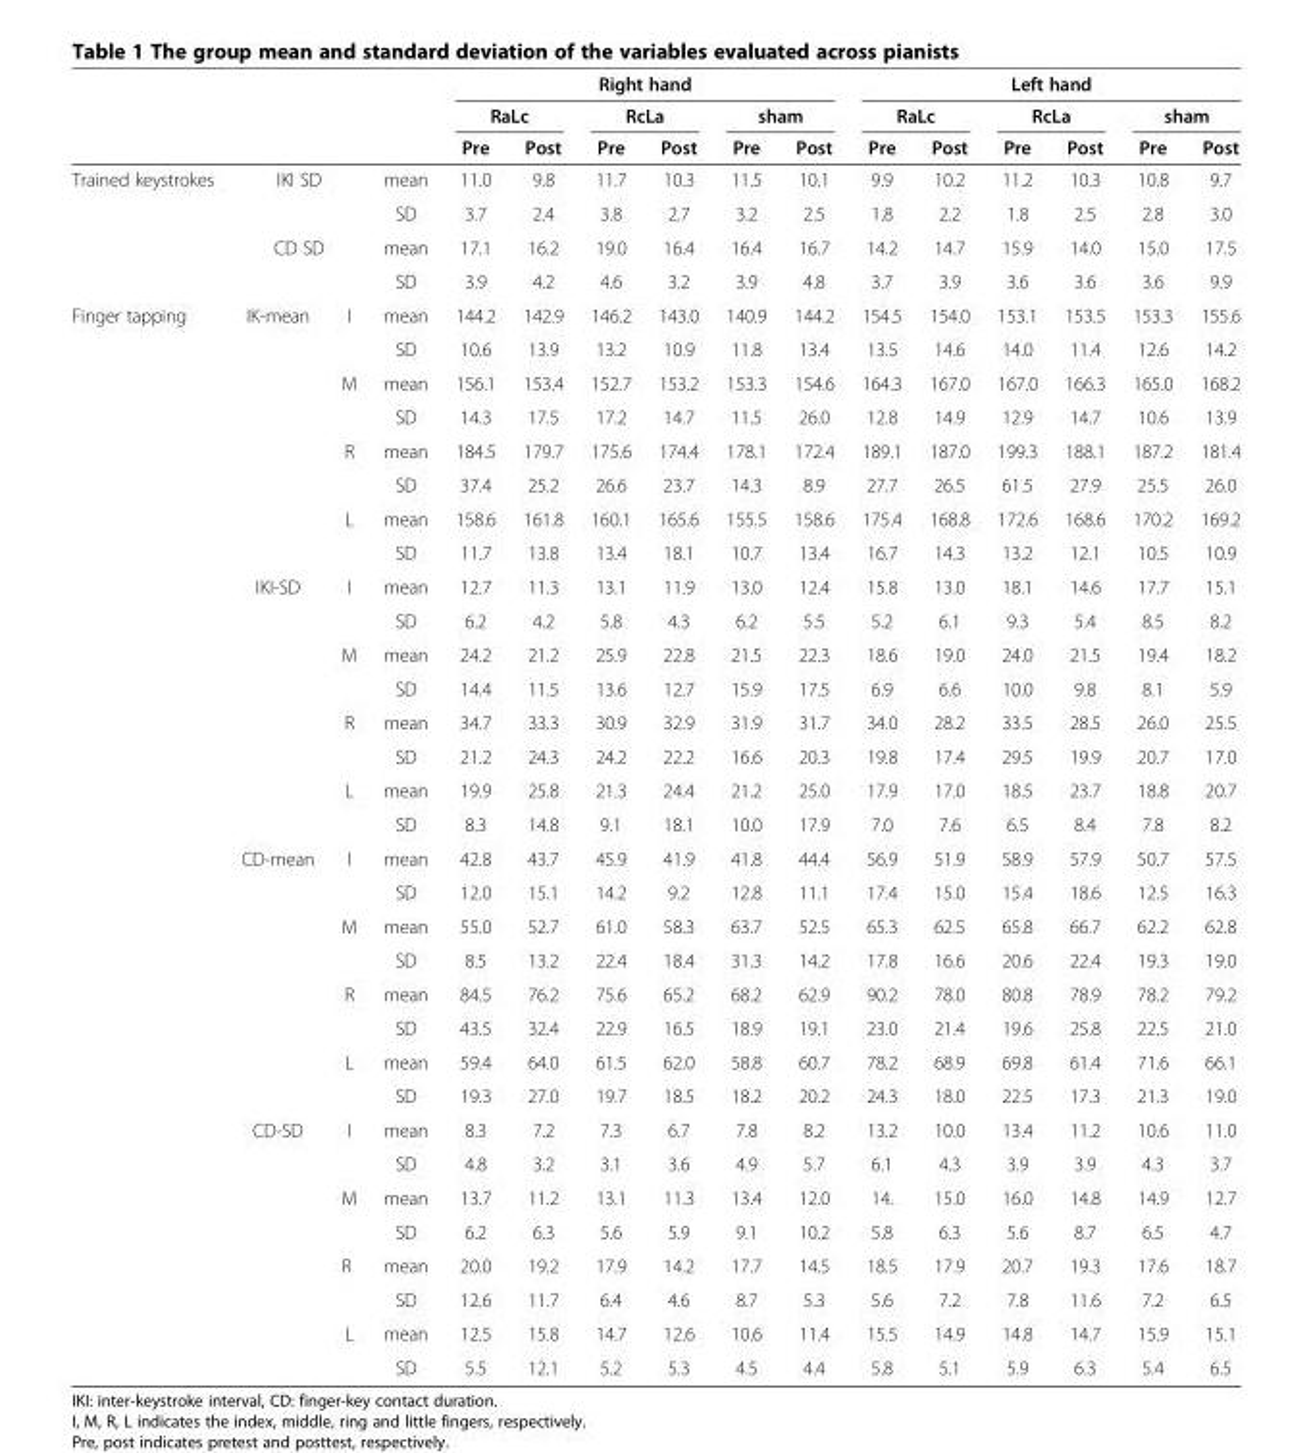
<table><thead><tr><td rowspan="3"></td><td rowspan="3"></td><td rowspan="3"></td><td rowspan="3"></td><td colspan="6">Right hand</td><td colspan="6">Left hand</td></tr><tr><td colspan="2">RaLc</td><td colspan="2">RcLa</td><td colspan="2">sham</td><td colspan="2">RaLc</td><td colspan="2">RcLa</td><td colspan="2">sham</td></tr><tr><td>Pre</td><td>Post</td><td>Pre</td><td>Post</td><td>Pre</td><td>Post</td><td>Pre</td><td>Post</td><td>Pre</td><td>Post</td><td>Pre</td><td>Post</td></tr></thead><tbody><tr><td rowspan="4">Trained keystrokes</td><td colspan="2">IKI SD</td><td>mean</td><td>11.0</td><td>9.8</td><td>11.7</td><td>10.3</td><td>11.5</td><td>10.1</td><td>9.9</td><td>10.2</td><td>11.2</td><td>10.3</td><td>10.8</td><td>9.7</td></tr><tr><td colspan="2"></td><td>SD</td><td>3.7</td><td>2.4</td><td>3.8</td><td>2.7</td><td>3.2</td><td>2.5</td><td>1.8</td><td>2.2</td><td>1.8</td><td>2.5</td><td>2.8</td><td>3.0</td></tr><tr><td rowspan="2">CD SD</td><td></td><td>mean</td><td>17.1</td><td>16.2</td><td>19.0</td><td>16.4</td><td>16.4</td><td>16.7</td><td>14.2</td><td>14.7</td><td>15.9</td><td>14.0</td><td>15.0</td><td>17.5</td></tr><tr><td></td><td>SD</td><td>3.9</td><td>4.2</td><td>4.6</td><td>3.2</td><td>3.9</td><td>4.8</td><td>3.7</td><td>3.9</td><td>3.6</td><td>3.6</td><td>3.6</td><td>9.9</td></tr><tr><td rowspan="32">Finger tapping</td><td rowspan="8">IK-mean</td><td>I</td><td>mean</td><td>144.2</td><td>142.9</td><td>146.2</td><td>143.0</td><td>140.9</td><td>144.2</td><td>154.5</td><td>154.0</td><td>153.1</td><td>153.5</td><td>153.3</td><td>155.6</td></tr><tr><td></td><td>SD</td><td>10.6</td><td>13.9</td><td>13.2</td><td>10.9</td><td>11.8</td><td>13.4</td><td>13.5</td><td>14.6</td><td>14.0</td><td>11.4</td><td>12.6</td><td>14.2</td></tr><tr><td>M</td><td>mean</td><td>156.1</td><td>153.4</td><td>152.7</td><td>153.2</td><td>153.3</td><td>154.6</td><td>164.3</td><td>167.0</td><td>167.0</td><td>166.3</td><td>165.0</td><td>168.2</td></tr><tr><td></td><td>SD</td><td>14.3</td><td>17.5</td><td>17.2</td><td>14.7</td><td>11.5</td><td>26.0</td><td>12.8</td><td>14.9</td><td>12.9</td><td>14.7</td><td>10.6</td><td>13.9</td></tr><tr><td>R</td><td>mean</td><td>184.5</td><td>179.7</td><td>175.6</td><td>174.4</td><td>178.1</td><td>172.4</td><td>189.1</td><td>187.0</td><td>199.3</td><td>188.1</td><td>187.2</td><td>181.4</td></tr><tr><td></td><td>SD</td><td>37.4</td><td>25.2</td><td>26.6</td><td>23.7</td><td>14.3</td><td>8.9</td><td>27.7</td><td>26.5</td><td>61.5</td><td>27.9</td><td>25.5</td><td>26.0</td></tr><tr><td>L</td><td>mean</td><td>158.6</td><td>161.8</td><td>160.1</td><td>165.6</td><td>155.5</td><td>158.6</td><td>175.4</td><td>168.8</td><td>172.6</td><td>168.6</td><td>170.2</td><td>169.2</td></tr><tr><td></td><td>SD</td><td>11.7</td><td>13.8</td><td>13.4</td><td>18.1</td><td>10.7</td><td>13.4</td><td>16.7</td><td>14.3</td><td>13.2</td><td>12.1</td><td>10.5</td><td>10.9</td></tr><tr><td rowspan="5">IKI-SD</td><td>I</td><td>mean</td><td>12.7</td><td>11.3</td><td>13.1</td><td>11.9</td><td>13.0</td><td>12.4</td><td>15.8</td><td>13.0</td><td>18.1</td><td>14.6</td><td>17.7</td><td>15.1</td></tr><tr><td></td><td>SD</td><td>6.2</td><td>4.2</td><td>5.8</td><td>4.3</td><td>6.2</td><td>5.5</td><td>5.2</td><td>6.1</td><td>9.3</td><td>5.4</td><td>8.5</td><td>8.2</td></tr><tr><td>M</td><td>mean</td><td>24.2</td><td>21.2</td><td>25.9</td><td>22.8</td><td>21.5</td><td>22.3</td><td>18.6</td><td>19.0</td><td>24.0</td><td>21.5</td><td>19.4</td><td>18.2</td></tr><tr><td></td><td>SD</td><td>14.4</td><td>11.5</td><td>13.6</td><td>12.7</td><td>15.9</td><td>17.5</td><td>6.9</td><td>6.6</td><td>10.0</td><td>9.8</td><td>8.1</td><td>5.9</td></tr><tr><td>R</td><td>mean</td><td>34.7</td><td>33.3</td><td>30.9</td><td>32.9</td><td>31.9</td><td>31.7</td><td>34.0</td><td>28.2</td><td>33.5</td><td>28.5</td><td>26.0</td><td>25.5</td></tr><tr><td rowspan="3"></td><td></td><td>SD</td><td>21.2</td><td>24.3</td><td>24.2</td><td>22.2</td><td>16.6</td><td>20.3</td><td>19.8</td><td>17.4</td><td>29.5</td><td>19.9</td><td>20.7</td><td>17.0</td></tr><tr><td>L</td><td>mean</td><td>19.9</td><td>25.8</td><td>21.3</td><td>24.4</td><td>21.2</td><td>25.0</td><td>17.9</td><td>17.0</td><td>18.5</td><td>23.7</td><td>18.8</td><td>20.7</td></tr><tr><td></td><td>SD</td><td>8.3</td><td>14.8</td><td>9.1</td><td>18.1</td><td>10.0</td><td>17.9</td><td>7.0</td><td>7.6</td><td>6.5</td><td>8.4</td><td>7.8</td><td>8.2</td></tr><tr><td rowspan="8">CD-mean</td><td>I</td><td>mean</td><td>42.8</td><td>43.7</td><td>45.9</td><td>41.9</td><td>41.8</td><td>44.4</td><td>56.9</td><td>51.9</td><td>58.9</td><td>57.9</td><td>50.7</td><td>57.5</td></tr><tr><td></td><td>SD</td><td>12.0</td><td>15.1</td><td>14.2</td><td>9.2</td><td>12.8</td><td>11.1</td><td>17.4</td><td>15.0</td><td>15.4</td><td>18.6</td><td>12.5</td><td>16.3</td></tr><tr><td>M</td><td>mean</td><td>55.0</td><td>52.7</td><td>61.0</td><td>58.3</td><td>63.7</td><td>52.5</td><td>65.3</td><td>62.5</td><td>65.8</td><td>66.7</td><td>62.2</td><td>62.8</td></tr><tr><td></td><td>SD</td><td>8.5</td><td>13.2</td><td>22.4</td><td>18.4</td><td>31.3</td><td>14.2</td><td>17.8</td><td>16.6</td><td>20.6</td><td>22.4</td><td>19.3</td><td>19.0</td></tr><tr><td>R</td><td>mean</td><td>84.5</td><td>76.2</td><td>75.6</td><td>65.2</td><td>68.2</td><td>62.9</td><td>90.2</td><td>78.0</td><td>80.8</td><td>78.9</td><td>78.2</td><td>79.2</td></tr><tr><td></td><td>SD</td><td>43.5</td><td>32.4</td><td>22.9</td><td>16.5</td><td>18.9</td><td>19.1</td><td>23.0</td><td>21.4</td><td>19.6</td><td>25.8</td><td>22.5</td><td>21.0</td></tr><tr><td>L</td><td>mean</td><td>59.4</td><td>64.0</td><td>61.5</td><td>62.0</td><td>58.8</td><td>60.7</td><td>78.2</td><td>68.9</td><td>69.8</td><td>61.4</td><td>71.6</td><td>66.1</td></tr><tr><td></td><td>SD</td><td>19.3</td><td>27.0</td><td>19.7</td><td>18.5</td><td>18.2</td><td>20.2</td><td>24.3</td><td>18.0</td><td>22.5</td><td>17.3</td><td>21.3</td><td>19.0</td></tr><tr><td rowspan="8">CD-SD</td><td>I</td><td>mean</td><td>8.3</td><td>7.2</td><td>7.3</td><td>6.7</td><td>7.8</td><td>8.2</td><td>13.2</td><td>10.0</td><td>13.4</td><td>11.2</td><td>10.6</td><td>11.0</td></tr><tr><td></td><td>SD</td><td>4.8</td><td>3.2</td><td>3.1</td><td>3.6</td><td>4.9</td><td>5.7</td><td>6.1</td><td>4.3</td><td>3.9</td><td>3.9</td><td>4.3</td><td>3.7</td></tr><tr><td>M</td><td>mean</td><td>13.7</td><td>11.2</td><td>13.1</td><td>11.3</td><td>13.4</td><td>12.0</td><td>14.</td><td>15.0</td><td>16.0</td><td>14.8</td><td>14.9</td><td>12.7</td></tr><tr><td></td><td>SD</td><td>6.2</td><td>6.3</td><td>5.6</td><td>5.9</td><td>9.1</td><td>10.2</td><td>5.8</td><td>6.3</td><td>5.6</td><td>8.7</td><td>6.5</td><td>4.7</td></tr><tr><td>R</td><td>mean</td><td>20.0</td><td>19.2</td><td>17.9</td><td>14.2</td><td>17.7</td><td>14.5</td><td>18.5</td><td>17.9</td><td>20.7</td><td>19.3</td><td>17.6</td><td>18.7</td></tr><tr><td></td><td>SD</td><td>12.6</td><td>11.7</td><td>6.4</td><td>4.6</td><td>8.7</td><td>5.3</td><td>5.6</td><td>7.2</td><td>7.8</td><td>11.6</td><td>7.2</td><td>6.5</td></tr><tr><td>L</td><td>mean</td><td>12.5</td><td>15.8</td><td>14.7</td><td>12.6</td><td>10.6</td><td>11.4</td><td>15.5</td><td>14.9</td><td>14.8</td><td>14.7</td><td>15.9</td><td>15.1</td></tr><tr><td></td><td>SD</td><td>5.5</td><td>12.1</td><td>5.2</td><td>5.3</td><td>4.5</td><td>4.4</td><td>5.8</td><td>5.1</td><td>5.9</td><td>6.3</td><td>5.4</td><td>6.5</td></tr></tbody></table>